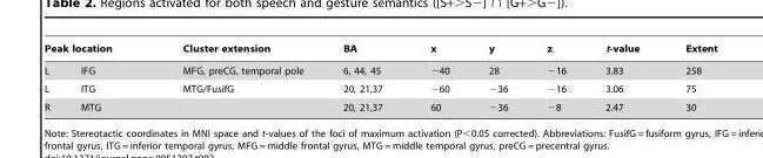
<table><thead><tr><td colspan="2">Peak location</td><td rowspan="2">Cluster extension MFG, preCG, temporal pole</td><td rowspan="2">BA 6, 44, 45</td><td rowspan="2">x −40</td><td rowspan="2">y 28</td><td rowspan="2">z −16</td><td rowspan="2">t-value 3.83</td><td rowspan="2">Extent 258</td></tr><tr><td>L</td><td>IFG</td></tr></thead><tbody><tr><td>L</td><td>ITG</td><td>MTG/FusifG</td><td>20, 21,37</td><td>−60</td><td>−36</td><td>−16</td><td>3.06</td><td>75</td></tr><tr><td>R</td><td>MTG</td><td></td><td>20, 21,37</td><td>60</td><td>−36</td><td>−8</td><td>2.47</td><td>30</td></tr></tbody></table>